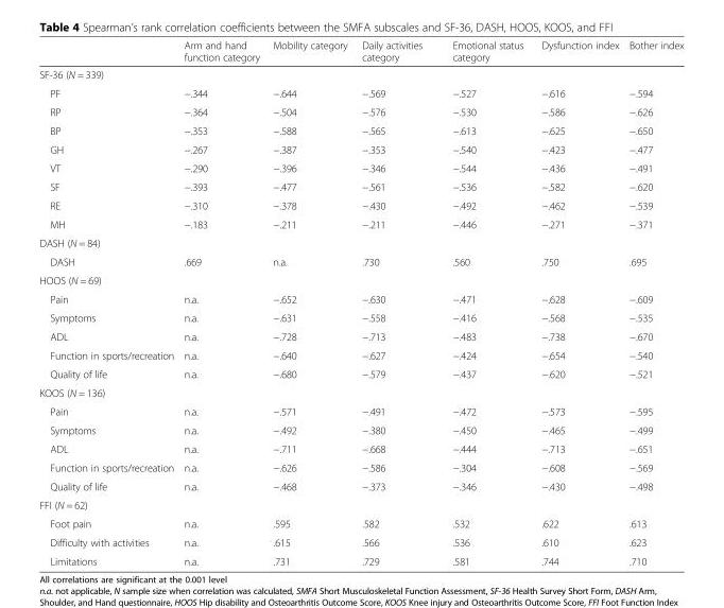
<table><thead><tr><td></td><td>Arm and hand function category</td><td>Mobility category</td><td>Daily activities category</td><td>Emotional status category</td><td>Dysfunction index</td><td>Bother index</td></tr></thead><tbody><tr><td colspan="7">SF-36 (N = 339)</td></tr><tr><td>PF</td><td>−.344</td><td>−.644</td><td>−.569</td><td>−.527</td><td>−.616</td><td>−.594</td></tr><tr><td>RP</td><td>−.364</td><td>−.504</td><td>−.576</td><td>−.530</td><td>−.586</td><td>−.626</td></tr><tr><td>BP</td><td>−.353</td><td>−.588</td><td>−.565</td><td>−.613</td><td>−.625</td><td>−.650</td></tr><tr><td>GH</td><td>−.267</td><td>−.387</td><td>−.353</td><td>−.540</td><td>−.423</td><td>−.477</td></tr><tr><td>VT</td><td>−.290</td><td>−.396</td><td>−.346</td><td>−.544</td><td>−.436</td><td>−.491</td></tr><tr><td>SF</td><td>−.393</td><td>−.477</td><td>−.561</td><td>−.536</td><td>−.582</td><td>−.620</td></tr><tr><td>RE</td><td>−.310</td><td>−.378</td><td>−.430</td><td>−.492</td><td>−.462</td><td>−.539</td></tr><tr><td>MH</td><td>−.183</td><td>−.211</td><td>−.211</td><td>−.446</td><td>−.271</td><td>−.371</td></tr><tr><td colspan="7">DASH (N = 84)</td></tr><tr><td>DASH</td><td>.669</td><td>n.a.</td><td>.730</td><td>.560</td><td>.750</td><td>.695</td></tr><tr><td colspan="7">HOOS (N = 69)</td></tr><tr><td>Pain</td><td>n.a.</td><td>−.652</td><td>−.630</td><td>−.471</td><td>−.628</td><td>−.609</td></tr><tr><td>Symptoms</td><td>n.a.</td><td>−.631</td><td>−.558</td><td>−.416</td><td>−.568</td><td>−.535</td></tr><tr><td>ADL</td><td>n.a.</td><td>−.728</td><td>−.713</td><td>−.483</td><td>−.738</td><td>−.670</td></tr><tr><td>Function in sports/recreation</td><td>n.a.</td><td>−.640</td><td>−.627</td><td>−.424</td><td>−.654</td><td>−.540</td></tr><tr><td>Quality of life</td><td>n.a.</td><td>−.680</td><td>−.579</td><td>−.437</td><td>−.620</td><td>−.521</td></tr><tr><td colspan="7">KOOS (N = 136)</td></tr><tr><td>Pain</td><td>n.a.</td><td>−.571</td><td>−.491</td><td>−.472</td><td>−.573</td><td>−.595</td></tr><tr><td>Symptoms</td><td>n.a.</td><td>−.492</td><td>−.380</td><td>−.450</td><td>−.465</td><td>−.499</td></tr><tr><td>ADL</td><td>n.a.</td><td>−.711</td><td>−.668</td><td>−.444</td><td>−.713</td><td>−.651</td></tr><tr><td>Function in sports/recreation</td><td>n.a.</td><td>−.626</td><td>−.586</td><td>−.304</td><td>−.608</td><td>−.569</td></tr><tr><td>Quality of life</td><td>n.a.</td><td>−.468</td><td>−.373</td><td>−.346</td><td>−.430</td><td>−.498</td></tr><tr><td colspan="7">FFI (N = 62)</td></tr><tr><td>Foot pain</td><td>n.a.</td><td>.595</td><td>.582</td><td>.532</td><td>.622</td><td>.613</td></tr><tr><td>Difficulty with activities</td><td>n.a.</td><td>.615</td><td>.566</td><td>.536</td><td>.610</td><td>.623</td></tr><tr><td>Limitations</td><td>n.a.</td><td>.731</td><td>.729</td><td>.581</td><td>.744</td><td>.710</td></tr></tbody></table>